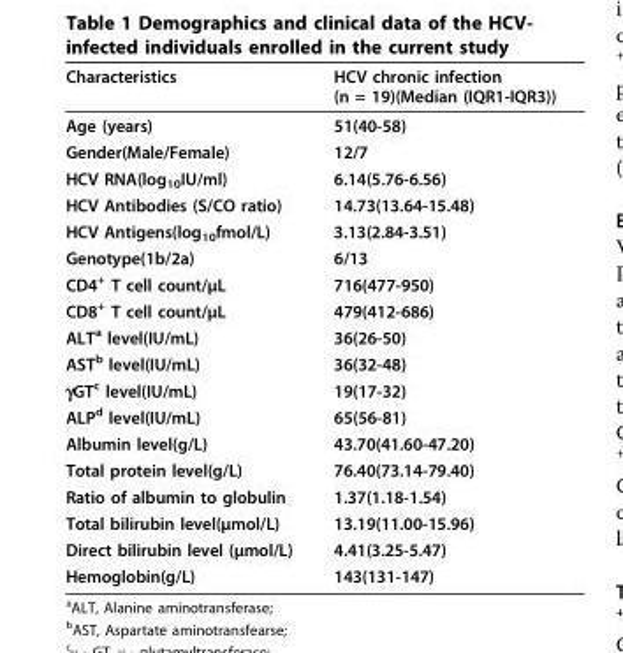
<table><thead><tr><td>Characteristics</td><td>HCV chronic infection (n = 19)(Median (IQR1-IQR3))</td></tr></thead><tbody><tr><td>Age (years)</td><td>51(40-58)</td></tr><tr><td>Gender(Male/Female)</td><td>12/7</td></tr><tr><td>HCV RNA(log<sub>10</sub>IU/ml)</td><td>6.14(5.76-6.56)</td></tr><tr><td>HCV Antibodies (S/CO ratio)</td><td>14.73(13.64-15.48)</td></tr><tr><td>HCV Antigens(log<sub>10</sub>fmol/L)</td><td>3.13(2.84-3.51)</td></tr><tr><td>Genotype(1b/2a)</td><td>6/13</td></tr><tr><td>CD4<sup>+</sup> T cell count/μL</td><td>716(477-950)</td></tr><tr><td>CD8<sup>+</sup> T cell count/μL</td><td>479(412-686)</td></tr><tr><td>ALT<sup>a</sup> level(IU/mL)</td><td>36(26-50)</td></tr><tr><td>AST<sup>b</sup> level(IU/mL)</td><td>36(32-48)</td></tr><tr><td>γGT<sup>c</sup> level(IU/mL)</td><td>19(17-32)</td></tr><tr><td>ALP<sup>d</sup> level(IU/mL)</td><td>65(56-81)</td></tr><tr><td>Albumin level(g/L)</td><td>43.70(41.60-47.20)</td></tr><tr><td>Total protein level(g/L)</td><td>76.40(73.14-79.40)</td></tr><tr><td>Ratio of albumin to globulin</td><td>1.37(1.18-1.54)</td></tr><tr><td>Total bilirubin level(μmol/L)</td><td>13.19(11.00-15.96)</td></tr><tr><td>Direct bilirubin level (μmol/L)</td><td>4.41(3.25-5.47)</td></tr><tr><td>Hemoglobin(g/L)</td><td>143(131-147)</td></tr></tbody></table>